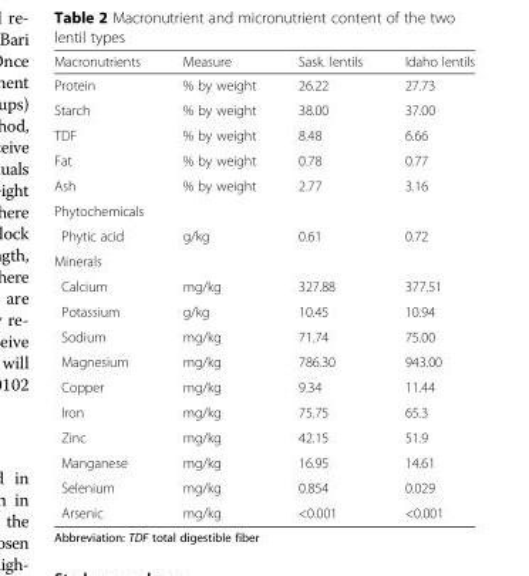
<table><thead><tr><td>Macronutrients</td><td>Measure</td><td>Sask. lentils</td><td>Idaho lentils</td></tr></thead><tbody><tr><td>Protein</td><td>% by weight</td><td>26.22</td><td>27.73</td></tr><tr><td>Starch</td><td>% by weight</td><td>38.00</td><td>37.00</td></tr><tr><td>TDF</td><td>% by weight</td><td>8.48</td><td>6.66</td></tr><tr><td>Fat</td><td>% by weight</td><td>0.78</td><td>0.77</td></tr><tr><td>Ash</td><td>% by weight</td><td>2.77</td><td>3.16</td></tr><tr><td colspan="4">Phytochemicals</td></tr><tr><td>Phytic acid</td><td>g/kg</td><td>0.61</td><td>0.72</td></tr><tr><td colspan="4">Minerals</td></tr><tr><td>Calcium</td><td>mg/kg</td><td>327.88</td><td>377.51</td></tr><tr><td>Potassium</td><td>g/kg</td><td>10.45</td><td>10.94</td></tr><tr><td>Sodium</td><td>mg/kg</td><td>71.74</td><td>75.00</td></tr><tr><td>Magnesium</td><td>mg/kg</td><td>786.30</td><td>943.00</td></tr><tr><td>Copper</td><td>mg/kg</td><td>9.34</td><td>11.44</td></tr><tr><td>Iron</td><td>mg/kg</td><td>75.75</td><td>65.3</td></tr><tr><td>Zinc</td><td>mg/kg</td><td>42.15</td><td>51.9</td></tr><tr><td>Manganese</td><td>mg/kg</td><td>16.95</td><td>14.61</td></tr><tr><td>Selenium</td><td>mg/kg</td><td>0.854</td><td>0.029</td></tr><tr><td>Arsenic</td><td>mg/kg</td><td>&lt;0.001</td><td>&lt;0.001</td></tr></tbody></table>